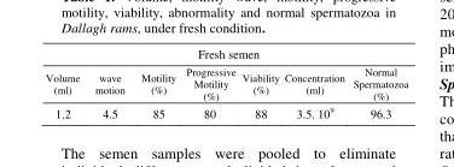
<table><thead><tr><td colspan="7">Fresh semen</td></tr><tr><td>Volume (ml)</td><td>wave motion</td><td>Motility (%)</td><td>Progressive Motility (%)</td><td>Viability (%)</td><td>Concentration (ml)</td><td>Normal Spermatozoa (%)</td></tr></thead><tbody><tr><td>1.2</td><td>4.5</td><td>85</td><td>80</td><td>88</td><td>3.5. 10<sup>9</sup></td><td>96.3</td></tr></tbody></table>